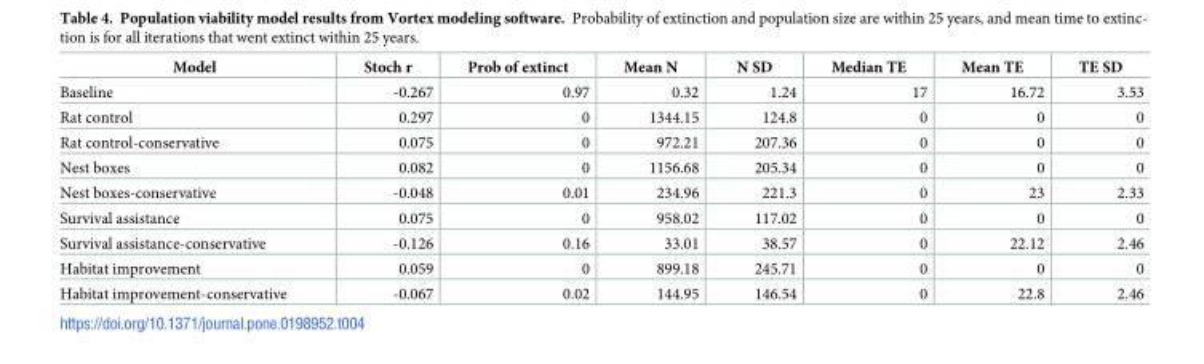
<table><thead><tr><td>Model</td><td>Stoch r</td><td>Prob of extinct</td><td>Mean N</td><td>N SD</td><td>Median TE</td><td>Mean TE</td><td>TE SD</td></tr></thead><tbody><tr><td>Baseline</td><td>-0.267</td><td>0.97</td><td>0.32</td><td>1.24</td><td>17</td><td>16.72</td><td>3.53</td></tr><tr><td>Rat control</td><td>0.297</td><td>0</td><td>1344.15</td><td>124.8</td><td>0</td><td>0</td><td>0</td></tr><tr><td>Rat control-conservative</td><td>0.075</td><td>0</td><td>972.21</td><td>207.36</td><td>0</td><td>0</td><td>0</td></tr><tr><td>Nest boxes</td><td>0.082</td><td>0</td><td>1156.68</td><td>205.34</td><td>0</td><td>0</td><td>0</td></tr><tr><td>Nest boxes-conservative</td><td>-0.048</td><td>0.01</td><td>234.96</td><td>221.3</td><td>0</td><td>23</td><td>2.33</td></tr><tr><td>Survival assistance</td><td>0.075</td><td>0</td><td>958.02</td><td>117.02</td><td>0</td><td>0</td><td>0</td></tr><tr><td>Survival assistance-conservative</td><td>-0.126</td><td>0.16</td><td>33.01</td><td>38.57</td><td>0</td><td>22.12</td><td>2.46</td></tr><tr><td>Habitat improvement</td><td>0.059</td><td>0</td><td>899.18</td><td>245.71</td><td>0</td><td>0</td><td>0</td></tr><tr><td>Habitat improvement-conservative</td><td>-0.067</td><td>0.02</td><td>144.95</td><td>146.54</td><td>0</td><td>22.8</td><td>2.46</td></tr></tbody></table>